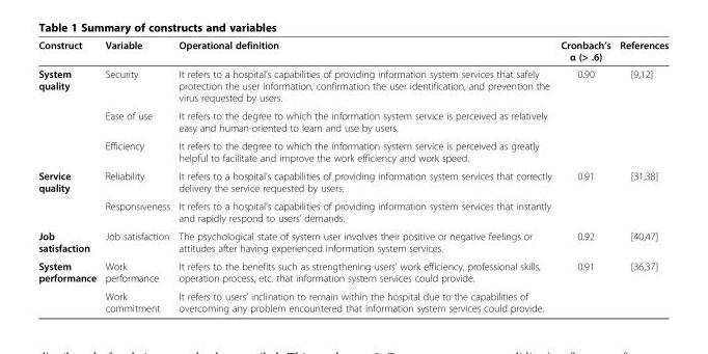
<table><thead><tr><td>Construct</td><td>Variable</td><td>Operational definition</td><td>Cronbach’s α (&gt; .6)</td><td>References</td></tr></thead><tbody><tr><td rowspan="3">System quality</td><td>Security</td><td>It refers to a hospital’s capabilities of providing information system services that safely protection the user information, confirmation the user identification, and prevention the virus requested by users.</td><td rowspan="3">0.90</td><td rowspan="3">[9,12]</td></tr><tr><td>Ease of use</td><td>It refers to the degree to which the information system service is perceived as relatively easy and human-oriented to learn and use by users.</td></tr><tr><td>Efficiency</td><td>It refers to the degree to which the information system service is perceived as greatly helpful to facilitate and improve the work efficiency and work speed.</td></tr><tr><td rowspan="2">Service quality</td><td>Reliability</td><td>It refers to a hospital’s capabilities of providing information system services that correctly delivery the service requested by users.</td><td rowspan="2">0.91</td><td rowspan="2">[31,38]</td></tr><tr><td>Responsiveness</td><td>It refers to a hospital’s capabilities of providing information system services that instantly and rapidly respond to users’ demands.</td></tr><tr><td>Job satisfaction</td><td>Job satisfaction</td><td>The psychological state of system user involves their positive or negative feelings or attitudes after having experienced information system services.</td><td>0.92</td><td>[40,47]</td></tr><tr><td rowspan="2">System performance</td><td>Work performance</td><td>It refers to the benefits such as strengthening users’ work efficiency, professional skills, operation process, etc. that information system services could provide.</td><td>0.91</td><td>[36,37]</td></tr><tr><td>Work commitment</td><td>It refers to users’ inclination to remain within the hospital due to the capabilities of overcoming any problem encountered that information system services could provide.</td><td></td><td></td></tr></tbody></table>